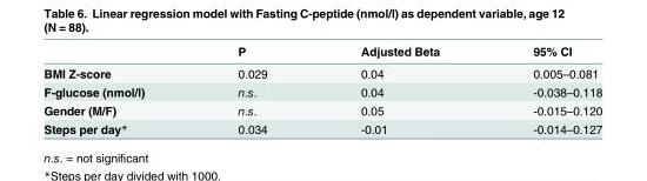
<table><thead><tr><td></td><td>P</td><td>Adjusted Beta</td><td>95% CI</td></tr></thead><tbody><tr><td>BMI Z-score</td><td>0.029</td><td>0.04</td><td>0.005–0.081</td></tr><tr><td>F-glucose (nmol/l)</td><td>n.s.</td><td>0.04</td><td>-0.038–0.118</td></tr><tr><td>Gender (M/F)</td><td>n.s.</td><td>0.05</td><td>-0.015–0.120</td></tr><tr><td>Steps per day*</td><td>0.034</td><td>-0.01</td><td>-0.014–0.127</td></tr></tbody></table>